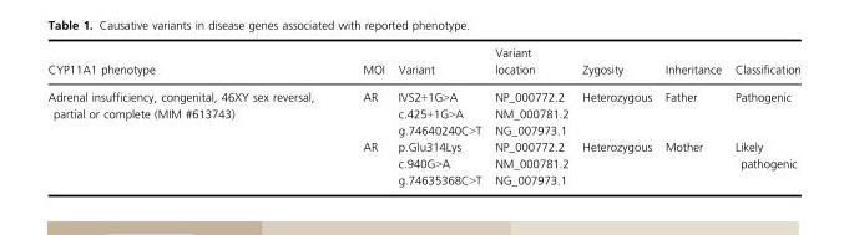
<table><thead><tr><td>CYP11A1 phenotype</td><td>MOI</td><td>Variant</td><td>Variant location</td><td>Zygosity</td><td>Inheritance</td><td>Classification</td></tr></thead><tbody><tr><td rowspan="6">Adrenal insufficiency, congenital, 46XY sex reversal, partial or complete (MIM #613743)</td><td rowspan="3">AR</td><td>IVS2+1G&gt;A</td><td>NP_000772.2</td><td rowspan="3">Heterozygous</td><td rowspan="3">Father</td><td rowspan="3">Pathogenic</td></tr><tr><td>c.425+1G&gt;A</td><td>NM_000781.2</td></tr><tr><td>g.74640240C&gt;T</td><td>NG_007973.1</td></tr><tr><td rowspan="3">AR</td><td>p.Glu314Lys</td><td>NP_000772.2</td><td rowspan="3">Heterozygous</td><td rowspan="3">Mother</td><td rowspan="3">Likely pathogenic</td></tr><tr><td>c.940G&gt;A</td><td>NM_000781.2</td></tr><tr><td>g.74635368C&gt;T</td><td>NG_007973.1</td></tr></tbody></table>